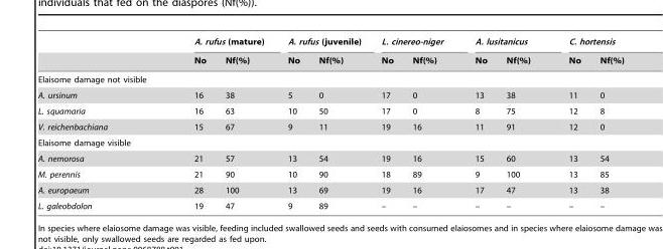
<table><thead><tr><td rowspan="2"></td><td colspan="2">A. rufus (mature)</td><td colspan="2">A. rufus (juvenile)</td><td colspan="2">L. cinereo-niger</td><td colspan="2">A. lusitanicus</td><td colspan="2">C. hortensis</td></tr><tr><td>No</td><td>Nf(%)</td><td>No</td><td>Nf(%)</td><td>No</td><td>Nf(%)</td><td>No</td><td>Nf(%)</td><td>No</td><td>Nf(%)</td></tr></thead><tbody><tr><td colspan="11">Elaisome damage not visible</td></tr><tr><td>A. ursinum</td><td>16</td><td>38</td><td>5</td><td>0</td><td>17</td><td>0</td><td>13</td><td>38</td><td>11</td><td>0</td></tr><tr><td>L. squamaria</td><td>16</td><td>63</td><td>10</td><td>50</td><td>17</td><td>0</td><td>8</td><td>75</td><td>12</td><td>8</td></tr><tr><td>V. reichenbachiana</td><td>15</td><td>67</td><td>9</td><td>11</td><td>19</td><td>16</td><td>11</td><td>91</td><td>12</td><td>0</td></tr><tr><td colspan="11">Elaisome damage visible</td></tr><tr><td>A. nemorosa</td><td>21</td><td>57</td><td>13</td><td>54</td><td>19</td><td>16</td><td>15</td><td>60</td><td>13</td><td>54</td></tr><tr><td>M. perennis</td><td>21</td><td>90</td><td>10</td><td>90</td><td>18</td><td>89</td><td>9</td><td>100</td><td>13</td><td>85</td></tr><tr><td>A. europaeum</td><td>28</td><td>100</td><td>13</td><td>69</td><td>19</td><td>16</td><td>17</td><td>47</td><td>13</td><td>38</td></tr><tr><td>L. galeobdolon</td><td>19</td><td>47</td><td>9</td><td>89</td><td>–</td><td>–</td><td>–</td><td>–</td><td>–</td><td>–</td></tr></tbody></table>